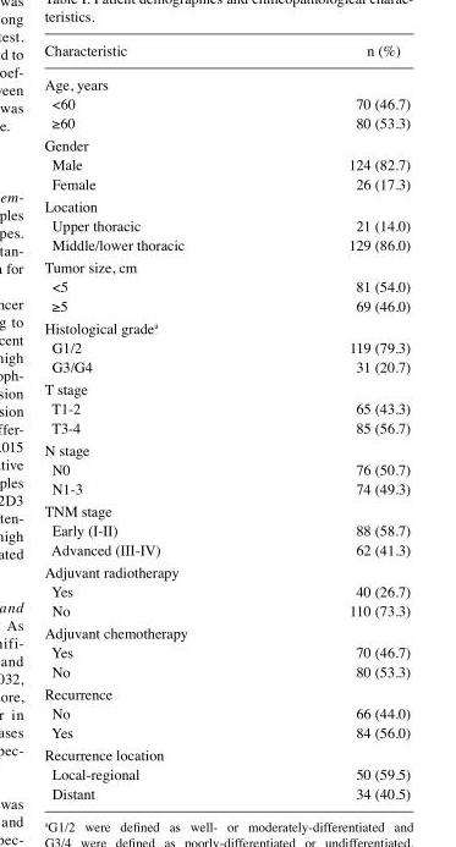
<table><thead><tr><td>Characteristic</td><td>n (%)</td></tr></thead><tbody><tr><td colspan="2">Age, years</td></tr><tr><td>&lt;60</td><td>70 (46.7)</td></tr><tr><td>≥60</td><td>80 (53.3)</td></tr><tr><td colspan="2">Gender</td></tr><tr><td>Male</td><td>124 (82.7)</td></tr><tr><td>Female</td><td>26 (17.3)</td></tr><tr><td colspan="2">Location</td></tr><tr><td>Upper thoracic</td><td>21 (14.0)</td></tr><tr><td>Middle/lower thoracic</td><td>129 (86.0)</td></tr><tr><td colspan="2">Tumor size, cm</td></tr><tr><td>&lt;5</td><td>81 (54.0)</td></tr><tr><td>≥5</td><td>69 (46.0)</td></tr><tr><td colspan="2">Histological grade<sup>a</sup></td></tr><tr><td>G1/2</td><td>119 (79.3)</td></tr><tr><td>G3/G4</td><td>31 (20.7)</td></tr><tr><td colspan="2">T stage</td></tr><tr><td>T1-2</td><td>65 (43.3)</td></tr><tr><td>T3-4</td><td>85 (56.7)</td></tr><tr><td colspan="2">N stage</td></tr><tr><td>N0</td><td>76 (50.7)</td></tr><tr><td>N1-3</td><td>74 (49.3)</td></tr><tr><td colspan="2">TNM stage</td></tr><tr><td>Early (I-II)</td><td>88 (58.7)</td></tr><tr><td>Advanced (III-IV)</td><td>62 (41.3)</td></tr><tr><td colspan="2">Adjuvant radiotherapy</td></tr><tr><td>Yes</td><td>40 (26.7)</td></tr><tr><td>No</td><td>110 (73.3)</td></tr><tr><td colspan="2">Adjuvant chemotherapy</td></tr><tr><td>Yes</td><td>70 (46.7)</td></tr><tr><td>No</td><td>80 (53.3)</td></tr><tr><td colspan="2">Recurrence</td></tr><tr><td>No</td><td>66 (44.0)</td></tr><tr><td>Yes</td><td>84 (56.0)</td></tr><tr><td colspan="2">Recurrence location</td></tr><tr><td>Local-regional</td><td>50 (59.5)</td></tr><tr><td>Distant</td><td>34 (40.5)</td></tr></tbody></table>